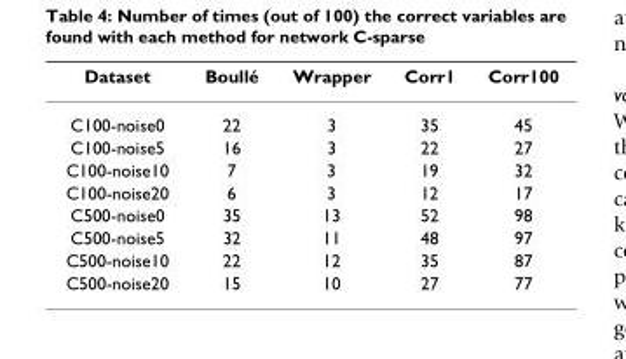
<table><thead><tr><td>Dataset</td><td>Boullé</td><td>Wrapper</td><td>Corr1</td><td>Corr100</td></tr></thead><tbody><tr><td>C100-noise0</td><td>22</td><td>3</td><td>35</td><td>45</td></tr><tr><td>C100-noise5</td><td>16</td><td>3</td><td>22</td><td>27</td></tr><tr><td>C100-noise10</td><td>7</td><td>3</td><td>19</td><td>32</td></tr><tr><td>C100-noise20</td><td>6</td><td>3</td><td>12</td><td>17</td></tr><tr><td>C500-noise0</td><td>35</td><td>13</td><td>52</td><td>98</td></tr><tr><td>C500-noise5</td><td>32</td><td>11</td><td>48</td><td>97</td></tr><tr><td>C500-noise10</td><td>22</td><td>12</td><td>35</td><td>87</td></tr><tr><td>C500-noise20</td><td>15</td><td>10</td><td>27</td><td>77</td></tr></tbody></table>